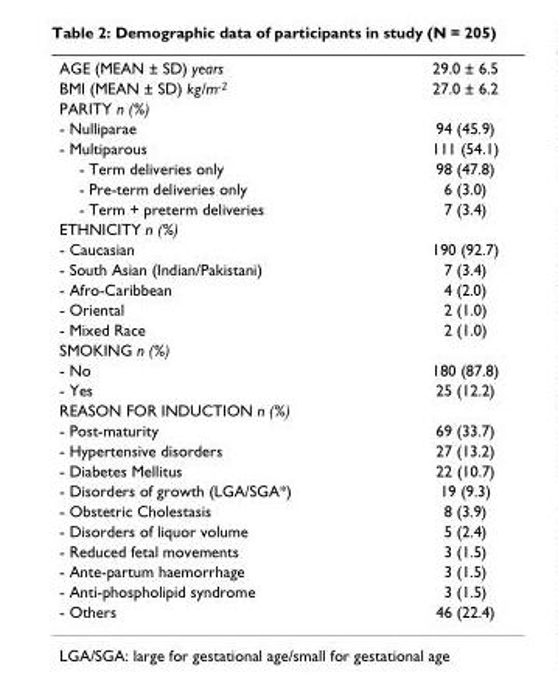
<table><tbody><tr><td>AGE (MEAN ± SD) years</td><td>29.0 ± 6.5</td></tr><tr><td>BMI (MEAN ± SD) kg/m<sup>-2</sup></td><td>27.0 ± 6.2</td></tr><tr><td colspan="2">PARITY n (%)</td></tr><tr><td>- Nulliparae</td><td>94 (45.9)</td></tr><tr><td>- Multiparous</td><td>111 (54.1)</td></tr><tr><td>- Term deliveries only</td><td>98 (47.8)</td></tr><tr><td>- Pre-term deliveries only</td><td>6 (3.0)</td></tr><tr><td>- Term + preterm deliveries</td><td>7 (3.4)</td></tr><tr><td colspan="2">ETHNICITY n (%)</td></tr><tr><td>- Caucasian</td><td>190 (92.7)</td></tr><tr><td>- South Asian (Indian/Pakistani)</td><td>7 (3.4)</td></tr><tr><td>- Afro-Caribbean</td><td>4 (2.0)</td></tr><tr><td>- Oriental</td><td>2 (1.0)</td></tr><tr><td>- Mixed Race</td><td>2 (1.0)</td></tr><tr><td colspan="2">SMOKING n (%)</td></tr><tr><td>- No</td><td>180 (87.8)</td></tr><tr><td>- Yes</td><td>25 (12.2)</td></tr><tr><td colspan="2">REASON FOR INDUCTION n (%)</td></tr><tr><td>- Post-maturity</td><td>69 (33.7)</td></tr><tr><td>- Hypertensive disorders</td><td>27 (13.2)</td></tr><tr><td>- Diabetes Mellitus</td><td>22 (10.7)</td></tr><tr><td>- Disorders of growth (LGA/SGA*)</td><td>19 (9.3)</td></tr><tr><td>- Obstetric Cholestasis</td><td>8 (3.9)</td></tr><tr><td>- Disorders of liquor volume</td><td>5 (2.4)</td></tr><tr><td>- Reduced fetal movements</td><td>3 (1.5)</td></tr><tr><td>- Ante-partum haemorrhage</td><td>3 (1.5)</td></tr><tr><td>- Anti-phospholipid syndrome</td><td>3 (1.5)</td></tr><tr><td>- Others</td><td>46 (22.4)</td></tr></tbody></table>